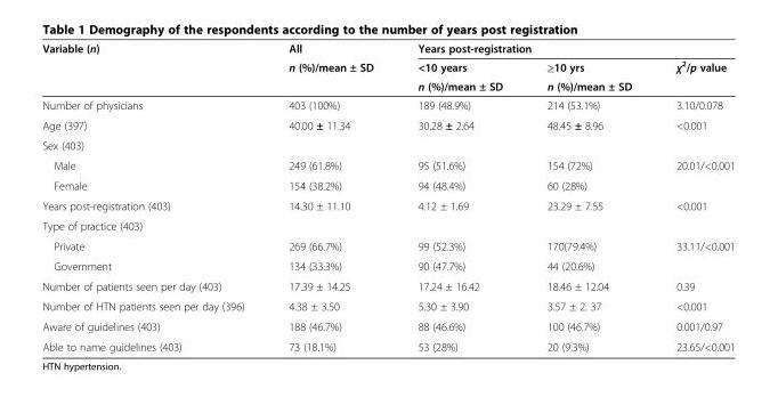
<table><thead><tr><td rowspan="3">Variable (n)</td><td rowspan="3">All n (%)/mean ± SD</td><td colspan="2">Years post-registration</td><td rowspan="3">χ<sup>2</sup>/p value</td></tr><tr><td rowspan="2">&lt;10 years n (%)/mean ± SD</td><td rowspan="2">≥10 yrs n (%)/mean ± SD</td></tr><tr></tr></thead><tbody><tr><td>Number of physicians</td><td>403 (100%)</td><td>189 (48.9%)</td><td>214 (53.1%)</td><td>3.10/0.078</td></tr><tr><td>Age (397)</td><td>40.00 ± 11.34</td><td>30.28 ± 2.64</td><td>48.45 ± 8.96</td><td>&lt;0.001</td></tr><tr><td colspan="5">Sex (403)</td></tr><tr><td>Male</td><td>249 (61.8%)</td><td>95 (51.6%)</td><td>154 (72%)</td><td rowspan="2">20.01/&lt;0.001</td></tr><tr><td>Female</td><td>154 (38.2%)</td><td>94 (48.4%)</td><td>60 (28%)</td></tr><tr><td>Years post-registration (403)</td><td>14.30 ± 11.10</td><td>4.12 ± 1.69</td><td>23.29 ± 7.55</td><td>&lt;0.001</td></tr><tr><td colspan="5">Type of practice (403)</td></tr><tr><td>Private</td><td>269 (66.7%)</td><td>99 (52.3%)</td><td>170(79.4%)</td><td rowspan="2">33.11/&lt;0.001</td></tr><tr><td>Government</td><td>134 (33.3%)</td><td>90 (47.7%)</td><td>44 (20.6%)</td></tr><tr><td>Number of patients seen per day (403)</td><td>17.39 ± 14.25</td><td>17.24 ± 16.42</td><td>18.46 ± 12.04</td><td>0.39</td></tr><tr><td>Number of HTN patients seen per day (396)</td><td>4.38 ± 3.50</td><td>5.30 ± 3.90</td><td>3.57 ± 2. 37</td><td>&lt;0.001</td></tr><tr><td>Aware of guidelines (403)</td><td>188 (46.7%)</td><td>88 (46.6%)</td><td>100 (46.7%)</td><td>0.001/0.97</td></tr><tr><td>Able to name guidelines (403)</td><td>73 (18.1%)</td><td>53 (28%)</td><td>20 (9.3%)</td><td>23.65/&lt;0.001</td></tr></tbody></table>